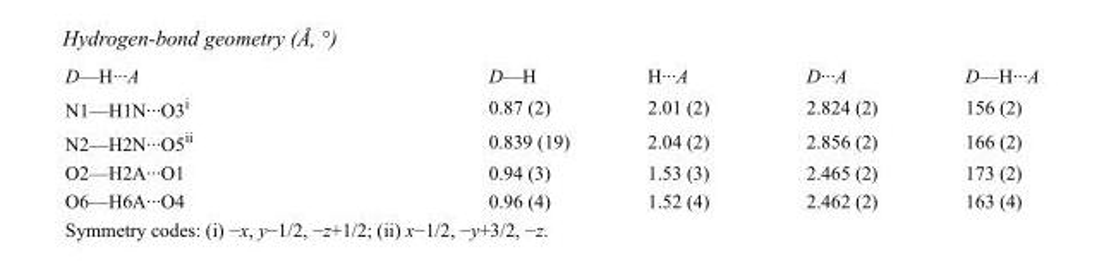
<table><tbody><tr><td>D—H···A</td><td>D—H</td><td>H···A</td><td>D···A</td><td>D—H···A</td></tr><tr><td>N1—H1N···O3<sup>i</sup></td><td>0.87 (2)</td><td>2.01 (2)</td><td>2.824 (2)</td><td>156 (2)</td></tr><tr><td>N2—H2N···O5<sup>ii</sup></td><td>0.839 (19)</td><td>2.04 (2)</td><td>2.856 (2)</td><td>166 (2)</td></tr><tr><td>O2—H2A···O1</td><td>0.94 (3)</td><td>1.53 (3)</td><td>2.465 (2)</td><td>173 (2)</td></tr><tr><td>O6—H6A···O4</td><td>0.96 (4)</td><td>1.52 (4)</td><td>2.462 (2)</td><td>163 (4)</td></tr></tbody></table>